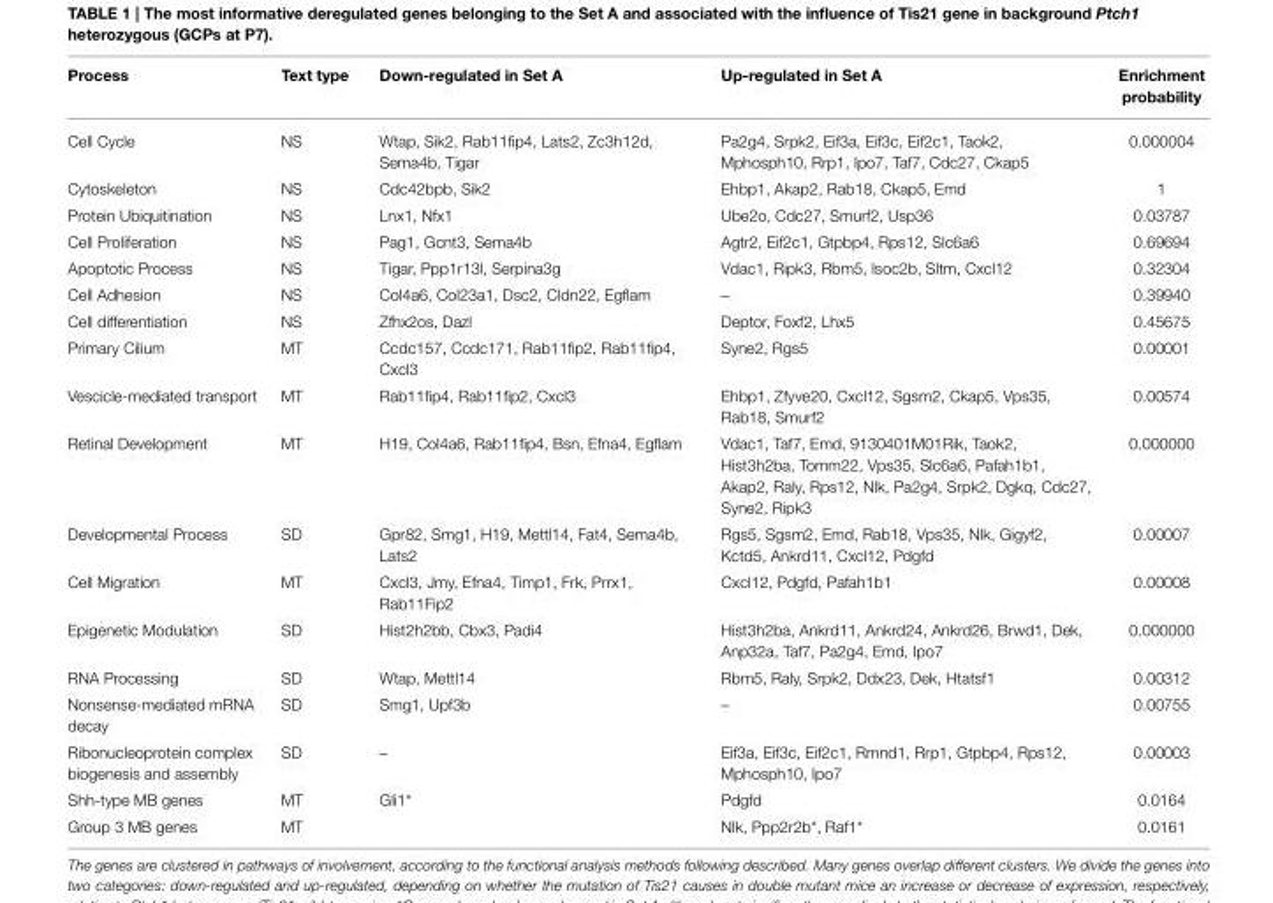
<table><thead><tr><td>Process</td><td>Text type</td><td>Down-regulated in Set A</td><td>Up-regulated in Set A</td><td>Enrichment probability</td></tr></thead><tbody><tr><td>Cell Cycle</td><td>NS</td><td>Wtap, Sik2, Rab11fip4, Lats2, Zc3h12d, Sema4b, Tigar</td><td>Pa2g4, Srpk2, Eif3a, Eif3c, Eif2c1, Taok2, Mphosph10, Rrp1, Ipo7, Taf7, Cdc27, Ckap5</td><td>0.000004</td></tr><tr><td>Cytoskeleton</td><td>NS</td><td>Cdc42bpb, Sik2</td><td>Ehbp1, Akap2, Rab18, Ckap5, Emd</td><td>1</td></tr><tr><td>Protein Ubiquitination</td><td>NS</td><td>Lnx1, Nfx1</td><td>Ube2o, Cdc27, Smurf2, Usp36</td><td>0.03787</td></tr><tr><td>Cell Proliferation</td><td>NS</td><td>Pag1, Gcnt3, Sema4b</td><td>Agtr2, Eif2c1, Gtpbp4, Rps12, Slc6a6</td><td>0.69694</td></tr><tr><td>Apoptotic Process</td><td>NS</td><td>Tigar, Ppp1r13l, Serpina3g</td><td>Vdac1, Ripk3, Rbm5, Isoc2b, Sltm, Cxcl12</td><td>0.32304</td></tr><tr><td>Cell Adhesion</td><td>NS</td><td>Col4a6, Col23a1, Dsc2, Cldn22, Egflam</td><td>–</td><td>0.39940</td></tr><tr><td>Cell differentiation</td><td>NS</td><td>Zfhx2os, Dazl</td><td>Deptor, Foxf2, Lhx5</td><td>0.45675</td></tr><tr><td>Primary Cilium</td><td>MT</td><td>Ccdc157, Ccdc171, Rab11fip2, Rab11fip4, Cxcl3</td><td>Syne2, Rgs5</td><td>0.00001</td></tr><tr><td>Vescicle-mediated transport</td><td>MT</td><td>Rab11fip4, Rab11fip2, Cxcl3</td><td>Ehbp1, Zfyve20, Cxcl12, Sgsm2, Ckap5, Vps35, Rab18, Smurf2</td><td>0.00574</td></tr><tr><td>Retinal Development</td><td>MT</td><td>H19, Col4a6, Rab11fip4, Bsn, Efna4, Egflam</td><td>Vdac1, Taf7, Emd, 9130401M01Rik, Taok2, Hist3h2ba, Tomm22, Vps35, Slc6a6, Pafah1b1, Akap2, Raly, Rps12, Nlk, Pa2g4, Srpk2, Dgkq, Cdc27, Syne2, Ripk3</td><td>0.000000</td></tr><tr><td>Developmental Process</td><td>SD</td><td>Gpr82, Smg1, H19, Mettl14, Fat4, Sema4b, Lats2</td><td>Rgs5, Sgsm2, Emd, Rab18, Vps35, Nlk, Gigyf2, Kctd5, Ankrd11, Cxcl12, Pdgfd</td><td>0.00007</td></tr><tr><td>Cell Migration</td><td>MT</td><td>Cxcl3, Jmy, Efna4, Timp1, Frk, Prrx1, Rab11Fip2</td><td>Cxcl12, Pdgfd, Pafah1b1</td><td>0.00008</td></tr><tr><td>Epigenetic Modulation</td><td>SD</td><td>Hist2h2bb, Cbx3, Padi4</td><td>Hist3h2ba, Ankrd11, Ankrd24, Ankrd26, Brwd1, Dek, Anp32a, Taf7, Pa2g4, Emd, Ipo7</td><td>0.000000</td></tr><tr><td>RNA Processing</td><td>SD</td><td>Wtap, Mettl14</td><td>Rbm5, Raly, Srpk2, Ddx23, Dek, Htatsf1</td><td>0.00312</td></tr><tr><td>Nonsense-mediated mRNA decay</td><td>SD</td><td>Smg1, Upf3b</td><td>–</td><td>0.00755</td></tr><tr><td>Ribonucleoprotein complex biogenesis and assembly</td><td>SD</td><td>–</td><td>Eif3a, Eif3c, Eif2c1, Rmnd1, Rrp1, Gtpbp4, Rps12, Mphosph10, Ipo7</td><td>0.00003</td></tr><tr><td>Shh-type MB genes</td><td>MT</td><td>Gli1*</td><td>Pdgfd</td><td>0.0164</td></tr><tr><td>Group 3 MB genes</td><td>MT</td><td></td><td>Nlk, Ppp2r2b*, Raf1*</td><td>0.0161</td></tr></tbody></table>